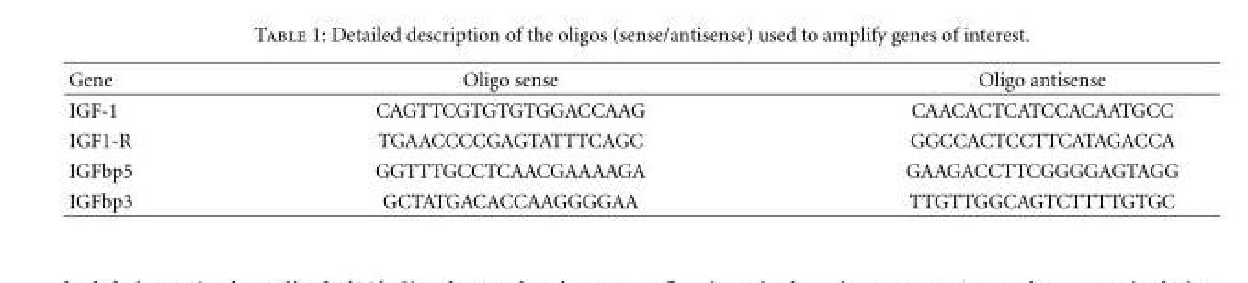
<table><thead><tr><td>Gene</td><td>Oligo sense</td><td>Oligo antisense</td></tr></thead><tbody><tr><td>IGF-1</td><td>CAGTTCGTGTGTGGACCAAG</td><td>CAACACTCATCCACAATGCC</td></tr><tr><td>IGF1-R</td><td>TGAACCCCGAGTATTTCAGC</td><td>GGCCACTCCTTCATAGACCA</td></tr><tr><td>IGFbp5</td><td>GGTTTGCCTCAACGAAAAGA</td><td>GAAGACCTTCGGGGAGTAGG</td></tr><tr><td>IGFbp3</td><td>GCTATGACACCAAGGGGAA</td><td>TTGTTGGCAGTCTTTTGTGC</td></tr></tbody></table>